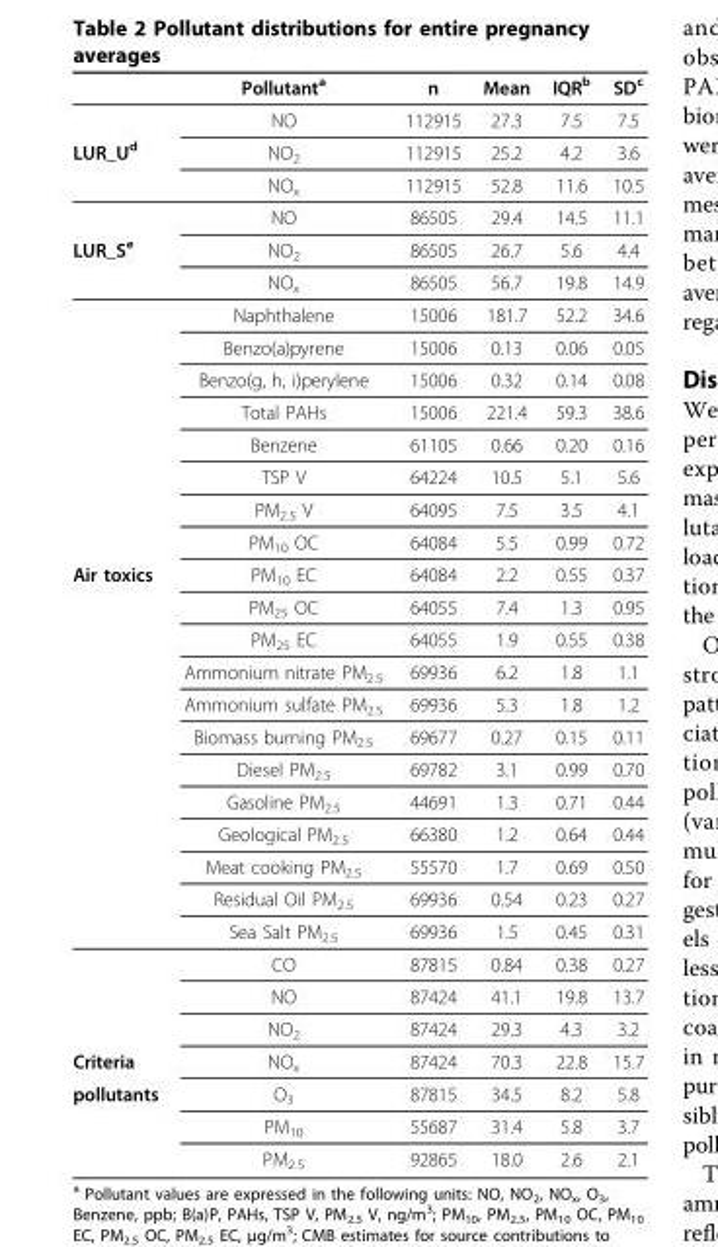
<table><thead><tr><td></td><td>Pollutant<sup>a</sup></td><td>n</td><td>Mean</td><td>IQR<sup>b</sup></td><td>SD<sup>c</sup></td></tr></thead><tbody><tr><td></td><td>NO</td><td>112915</td><td>27.3</td><td>7.5</td><td>7.5</td></tr><tr><td rowspan="3">LUR_U<sup>d</sup></td><td>NO<sub>2</sub></td><td>112915</td><td>25.2</td><td>4.2</td><td>3.6</td></tr><tr><td>NO<sub>x</sub></td><td>112915</td><td>52.8</td><td>11.6</td><td>10.5</td></tr><tr><td>NO</td><td>86505</td><td>29.4</td><td>14.5</td><td>11.1</td></tr><tr><td rowspan="10">LUR_S<sup>e</sup></td><td>NO<sub>2</sub></td><td>86505</td><td>26.7</td><td>5.6</td><td>4.4</td></tr><tr><td>NO<sub>x</sub></td><td>86505</td><td>56.7</td><td>19.8</td><td>14.9</td></tr><tr><td>Naphthalene</td><td>15006</td><td>181.7</td><td>52.2</td><td>34.6</td></tr><tr><td>Benzo(a)pyrene</td><td>15006</td><td>0.13</td><td>0.06</td><td>0.05</td></tr><tr><td>Benzo(g, h, i)perylene</td><td>15006</td><td>0.32</td><td>0.14</td><td>0.08</td></tr><tr><td>Total PAHs</td><td>15006</td><td>221.4</td><td>59.3</td><td>38.6</td></tr><tr><td>Benzene</td><td>61105</td><td>0.66</td><td>0.20</td><td>0.16</td></tr><tr><td>TSP V</td><td>64224</td><td>10.5</td><td>5.1</td><td>5.6</td></tr><tr><td>PM<sub>2.5</sub> V</td><td>64095</td><td>7.5</td><td>3.5</td><td>4.1</td></tr><tr><td>PM<sub>10</sub> OC</td><td>64084</td><td>5.5</td><td>0.99</td><td>0.72</td></tr><tr><td rowspan="15">Air toxics</td><td>PM<sub>10</sub> EC</td><td>64084</td><td>2.2</td><td>0.55</td><td>0.37</td></tr><tr><td>PM<sub>25</sub> OC</td><td>64055</td><td>7.4</td><td>1.3</td><td>0.95</td></tr><tr><td>PM<sub>25</sub> EC</td><td>64055</td><td>1.9</td><td>0.55</td><td>0.38</td></tr><tr><td>Ammonium nitrate PM<sub>2.5</sub></td><td>69936</td><td>6.2</td><td>1.8</td><td>1.1</td></tr><tr><td>Ammonium sulfate PM<sub>2.5</sub></td><td>69936</td><td>5.3</td><td>1.8</td><td>1.2</td></tr><tr><td>Biomass burning PM<sub>2.5</sub></td><td>69677</td><td>0.27</td><td>0.15</td><td>0.11</td></tr><tr><td>Diesel PM<sub>2.5</sub></td><td>69782</td><td>3.1</td><td>0.99</td><td>0.70</td></tr><tr><td>Gasoline PM<sub>2.5</sub></td><td>44691</td><td>1.3</td><td>0.71</td><td>0.44</td></tr><tr><td>Geological PM<sub>2.5</sub></td><td>66380</td><td>1.2</td><td>0.64</td><td>0.44</td></tr><tr><td>Meat cooking PM<sub>2.5</sub></td><td>55570</td><td>1.7</td><td>0.69</td><td>0.50</td></tr><tr><td>Residual Oil PM<sub>2.5</sub></td><td>69936</td><td>0.54</td><td>0.23</td><td>0.27</td></tr><tr><td>Sea Salt PM<sub>2.5</sub></td><td>69936</td><td>1.5</td><td>0.45</td><td>0.31</td></tr><tr><td>CO</td><td>87815</td><td>0.84</td><td>0.38</td><td>0.27</td></tr><tr><td>NO</td><td>87424</td><td>41.1</td><td>19.8</td><td>13.7</td></tr><tr><td>NO<sub>2</sub></td><td>87424</td><td>29.3</td><td>4.3</td><td>3.2</td></tr><tr><td>Criteria</td><td>NO<sub>x</sub></td><td>87424</td><td>70.3</td><td>22.8</td><td>15.7</td></tr><tr><td rowspan="3">pollutants</td><td>O<sub>3</sub></td><td>87815</td><td>34.5</td><td>8.2</td><td>5.8</td></tr><tr><td>PM<sub>10</sub></td><td>55687</td><td>31.4</td><td>5.8</td><td>3.7</td></tr><tr><td>PM<sub>2.5</sub></td><td>92865</td><td>18.0</td><td>2.6</td><td>2.1</td></tr></tbody></table>